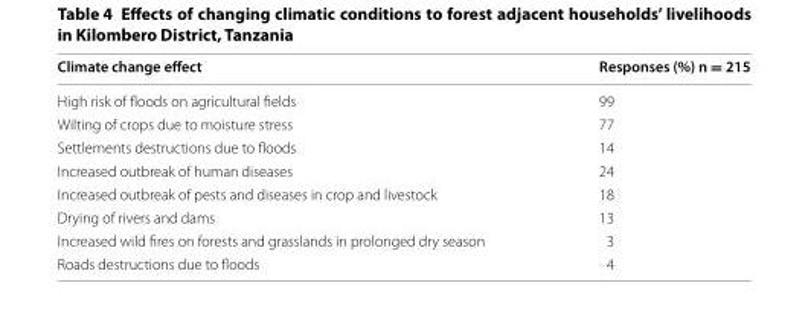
<table><thead><tr><td>Climate change effect</td><td>Responses (%) n = 215</td></tr></thead><tbody><tr><td>High risk of floods on agricultural fields</td><td>99</td></tr><tr><td>Wilting of crops due to moisture stress</td><td>77</td></tr><tr><td>Settlements destructions due to floods</td><td>14</td></tr><tr><td>Increased outbreak of human diseases</td><td>24</td></tr><tr><td>Increased outbreak of pests and diseases in crop and livestock</td><td>18</td></tr><tr><td>Drying of rivers and dams</td><td>13</td></tr><tr><td>Increased wild fires on forests and grasslands in prolonged dry season</td><td>3</td></tr><tr><td>Roads destructions due to floods</td><td>4</td></tr></tbody></table>